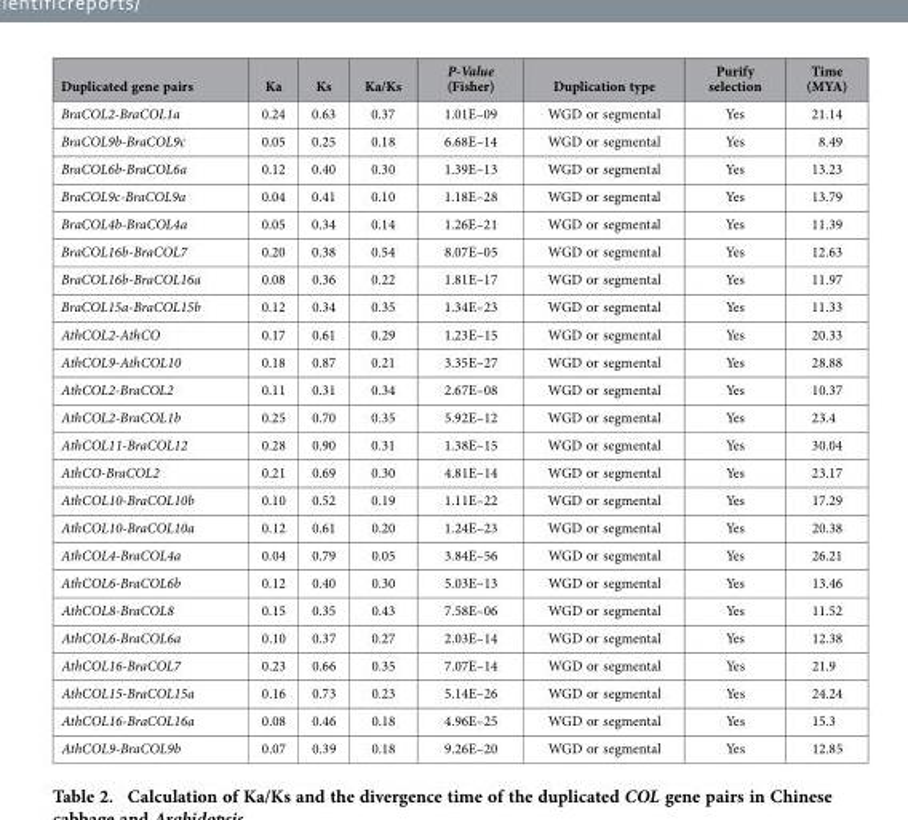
<table><thead><tr><td>Duplicated gene pairs</td><td>Ka</td><td>Ks</td><td>Ka/Ks</td><td>P-Value (Fisher)</td><td>Duplication type</td><td>Purify selection</td><td>Time (MYA)</td></tr></thead><tbody><tr><td>BraCOL2-BraCOL1a</td><td>0.24</td><td>0.63</td><td>0.37</td><td>1.01E–09</td><td>WGD or segmental</td><td>Yes</td><td>21.14</td></tr><tr><td>BraCOL9b-BraCOL9c</td><td>0.05</td><td>0.25</td><td>0.18</td><td>6.68E–14</td><td>WGD or segmental</td><td>Yes</td><td>8.49</td></tr><tr><td>BraCOL6b-BraCOL6a</td><td>0.12</td><td>0.40</td><td>0.30</td><td>1.39E–13</td><td>WGD or segmental</td><td>Yes</td><td>13.23</td></tr><tr><td>BraCOL9c-BraCOL9a</td><td>0.04</td><td>0.41</td><td>0.10</td><td>1.18E–28</td><td>WGD or segmental</td><td>Yes</td><td>13.79</td></tr><tr><td>BraCOL4b-BraCOL4a</td><td>0.05</td><td>0.34</td><td>0.14</td><td>1.26E–21</td><td>WGD or segmental</td><td>Yes</td><td>11.39</td></tr><tr><td>BraCOL16b-BraCOL7</td><td>0.20</td><td>0.38</td><td>0.54</td><td>8.07E–05</td><td>WGD or segmental</td><td>Yes</td><td>12.63</td></tr><tr><td>BraCOL16b-BraCOL16a</td><td>0.08</td><td>0.36</td><td>0.22</td><td>1.81E–17</td><td>WGD or segmental</td><td>Yes</td><td>11.97</td></tr><tr><td>BraCOL15a-BraCOL15b</td><td>0.12</td><td>0.34</td><td>0.35</td><td>1.34E–23</td><td>WGD or segmental</td><td>Yes</td><td>11.33</td></tr><tr><td>AthCOL2-AthCO</td><td>0.17</td><td>0.61</td><td>0.29</td><td>1.23E–15</td><td>WGD or segmental</td><td>Yes</td><td>20.33</td></tr><tr><td>AthCOL9-AthCOL10</td><td>0.18</td><td>0.87</td><td>0.21</td><td>3.35E–27</td><td>WGD or segmental</td><td>Yes</td><td>28.88</td></tr><tr><td>AthCOL2-BraCOL2</td><td>0.11</td><td>0.31</td><td>0.34</td><td>2.67E–08</td><td>WGD or segmental</td><td>Yes</td><td>10.37</td></tr><tr><td>AthCOL2-BraCOL1b</td><td>0.25</td><td>0.70</td><td>0.35</td><td>5.92E–12</td><td>WGD or segmental</td><td>Yes</td><td>23.4</td></tr><tr><td>AthCOL11-BraCOL12</td><td>0.28</td><td>0.90</td><td>0.31</td><td>1.38E–15</td><td>WGD or segmental</td><td>Yes</td><td>30.04</td></tr><tr><td>AthCO-BraCOL2</td><td>0.21</td><td>0.69</td><td>0.30</td><td>4.81E–14</td><td>WGD or segmental</td><td>Yes</td><td>23.17</td></tr><tr><td>AthCOL10-BraCOL10b</td><td>0.10</td><td>0.52</td><td>0.19</td><td>1.11E–22</td><td>WGD or segmental</td><td>Yes</td><td>17.29</td></tr><tr><td>AthCOL10-BraCOL10a</td><td>0.12</td><td>0.61</td><td>0.20</td><td>1.24E–23</td><td>WGD or segmental</td><td>Yes</td><td>20.38</td></tr><tr><td>AthCOL4-BraCOL4a</td><td>0.04</td><td>0.79</td><td>0.05</td><td>3.84E–56</td><td>WGD or segmental</td><td>Yes</td><td>26.21</td></tr><tr><td>AthCOL6-BraCOL6b</td><td>0.12</td><td>0.40</td><td>0.30</td><td>5.03E–13</td><td>WGD or segmental</td><td>Yes</td><td>13.46</td></tr><tr><td>AthCOL8-BraCOL8</td><td>0.15</td><td>0.35</td><td>0.43</td><td>7.58E–06</td><td>WGD or segmental</td><td>Yes</td><td>11.52</td></tr><tr><td>AthCOL6-BraCOL6a</td><td>0.10</td><td>0.37</td><td>0.27</td><td>2.03E–14</td><td>WGD or segmental</td><td>Yes</td><td>12.38</td></tr><tr><td>AthCOL16-BraCOL7</td><td>0.23</td><td>0.66</td><td>0.35</td><td>7.07E–14</td><td>WGD or segmental</td><td>Yes</td><td>21.9</td></tr><tr><td>AthCOL15-BraCOL15a</td><td>0.16</td><td>0.73</td><td>0.23</td><td>5.14E–26</td><td>WGD or segmental</td><td>Yes</td><td>24.24</td></tr><tr><td>AthCOL16-BraCOL16a</td><td>0.08</td><td>0.46</td><td>0.18</td><td>4.96E–25</td><td>WGD or segmental</td><td>Yes</td><td>15.3</td></tr><tr><td>AthCOL9-BraCOL9b</td><td>0.07</td><td>0.39</td><td>0.18</td><td>9.26E–20</td><td>WGD or segmental</td><td>Yes</td><td>12.85</td></tr></tbody></table>